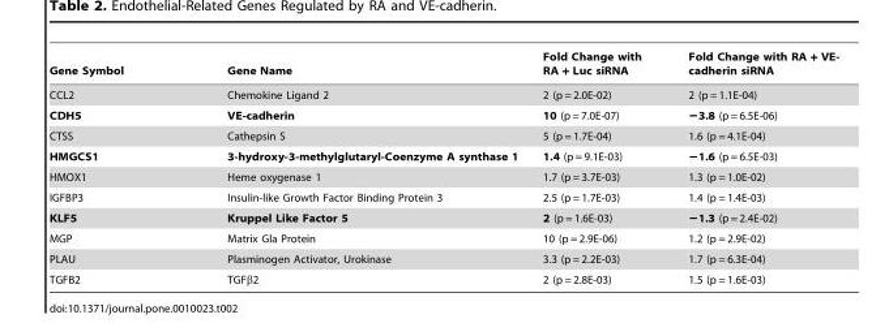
<table><thead><tr><td>Gene Symbol</td><td>Gene Name</td><td>Fold Change with RA + Luc siRNA</td><td>Fold Change with RA + VE- cadherin siRNA</td></tr></thead><tbody><tr><td>CCL2</td><td>Chemokine Ligand 2</td><td>2 (p = 2.0E-02)</td><td>2 (p = 1.1E-04)</td></tr><tr><td>CDH5</td><td>VE-cadherin</td><td>10 (p = 7.0E-07)</td><td>−3.8 (p = 6.5E-06)</td></tr><tr><td>CTSS</td><td>Cathepsin S</td><td>5 (p = 1.7E-04)</td><td>1.6 (p = 4.1E-04)</td></tr><tr><td>HMGCS1</td><td>3-hydroxy-3-methylglutaryl-Coenzyme A synthase 1</td><td>1.4 (p = 9.1E-03)</td><td>−1.6 (p = 6.5E-03)</td></tr><tr><td>HMOX1</td><td>Heme oxygenase 1</td><td>1.7 (p = 3.7E-03)</td><td>1.3 (p = 1.0E-02)</td></tr><tr><td>IGFBP3</td><td>Insulin-like Growth Factor Binding Protein 3</td><td>2.5 (p = 1.7E-03)</td><td>1.4 (p = 1.4E-03)</td></tr><tr><td>KLF5</td><td>Kruppel Like Factor 5</td><td>2 (p = 1.6E-03)</td><td>−1.3 (p = 2.4E-02)</td></tr><tr><td>MGP</td><td>Matrix Gla Protein</td><td>10 (p = 2.9E-06)</td><td>1.2 (p = 2.9E-02)</td></tr><tr><td>PLAU</td><td>Plasminogen Activator, Urokinase</td><td>3.3 (p = 2.2E-03)</td><td>1.7 (p = 6.3E-04)</td></tr><tr><td>TGFB2</td><td>TGFβ2</td><td>2 (p = 2.8E-03)</td><td>1.5 (p = 1.6E-03)</td></tr></tbody></table>